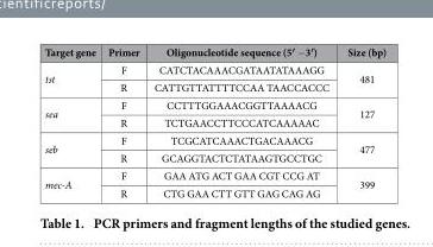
<table><thead><tr><td>Target gene</td><td>Primer</td><td>Oligonucleotide sequence (5′ −3′)</td><td>Size (bp)</td></tr></thead><tbody><tr><td rowspan="2">tst</td><td>F</td><td>CATCTACAAACGATAATATAAAGG</td><td rowspan="2">481</td></tr><tr><td>R</td><td>CATTGTTATTTTCCAA TAACCACCC</td></tr><tr><td rowspan="2">sea</td><td>F</td><td>CCTTTGGAAACGGTTAAAACG</td><td rowspan="2">127</td></tr><tr><td>R</td><td>TCTGAACCTTCCCATCAAAAAC</td></tr><tr><td rowspan="2">seb</td><td>F</td><td>TCGCATCAAACTGACAAACG</td><td rowspan="2">477</td></tr><tr><td>R</td><td>GCAGGTACTCTATAAGTGCCTGC</td></tr><tr><td rowspan="2">mec-A</td><td>F</td><td>GAA ATG ACT GAA CGT CCG AT</td><td rowspan="2">399</td></tr><tr><td>R</td><td>CTG GAA CTT GTT GAG CAG AG</td></tr></tbody></table>